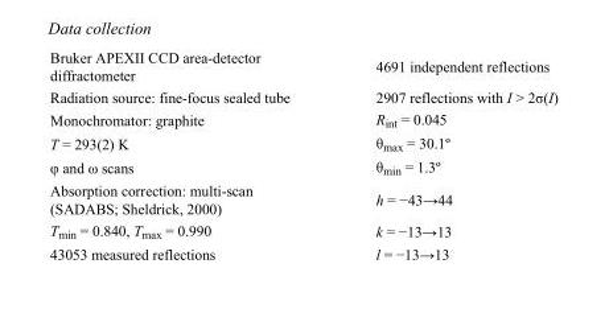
<table><tbody><tr><td>Bruker APEXII CCD area-detector diffractometer</td><td>4691 independent reflections</td></tr><tr><td>Radiation source: fine-focus sealed tube</td><td>2907 reflections with I &gt; 2σ(I)</td></tr><tr><td>Monochromator: graphite</td><td>R<sub>int</sub> = 0.045</td></tr><tr><td>T = 293(2) K</td><td>θ<sub>max</sub> = 30.1º</td></tr><tr><td>φ and ω scans</td><td>θ<sub>min</sub> = 1.3º</td></tr><tr><td>Absorption correction: multi-scan (SADABS; Sheldrick, 2000)</td><td>h = −43→44</td></tr><tr><td>T<sub>min</sub> = 0.840, T<sub>max</sub> = 0.990</td><td>k = −13→13</td></tr><tr><td>43053 measured reflections</td><td>l = −13→13</td></tr></tbody></table>